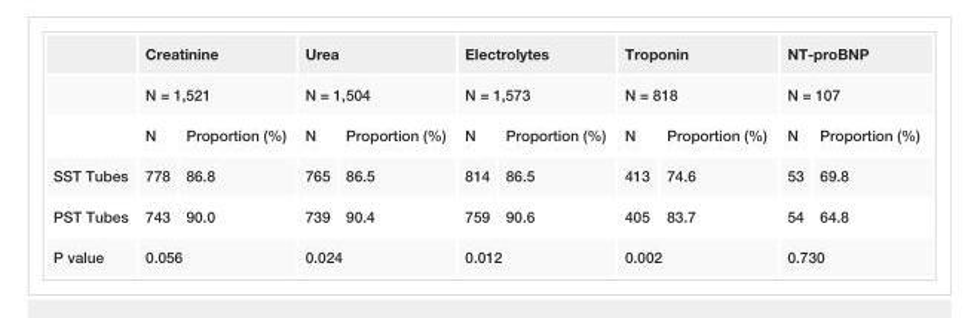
<table><thead><tr><td rowspan="3"></td><td rowspan="2" colspan="2">Creatinine N = 1,521</td><td rowspan="2" colspan="2">Urea N = 1,504</td><td rowspan="2" colspan="2">Electrolytes N = 1,573</td><td rowspan="2" colspan="2">Troponin N = 818</td><td rowspan="2" colspan="2">NT-proBNP N = 107</td></tr><tr></tr><tr><td>N</td><td>Proportion (%)</td><td>N</td><td>Proportion (%)</td><td>N</td><td>Proportion (%)</td><td>N</td><td>Proportion (%)</td><td>N</td><td>Proportion (%)</td></tr></thead><tbody><tr><td>SST Tubes</td><td>778</td><td>86.8</td><td>765</td><td>86.5</td><td>814</td><td>86.5</td><td>413</td><td>74.6</td><td>53</td><td>69.8</td></tr><tr><td>PST Tubes</td><td>743</td><td>90.0</td><td>739</td><td>90.4</td><td>759</td><td>90.6</td><td>405</td><td>83.7</td><td>54</td><td>64.8</td></tr><tr><td>P value</td><td colspan="2">0.056</td><td colspan="2">0.024</td><td colspan="2">0.012</td><td colspan="2">0.002</td><td colspan="2">0.730</td></tr></tbody></table>